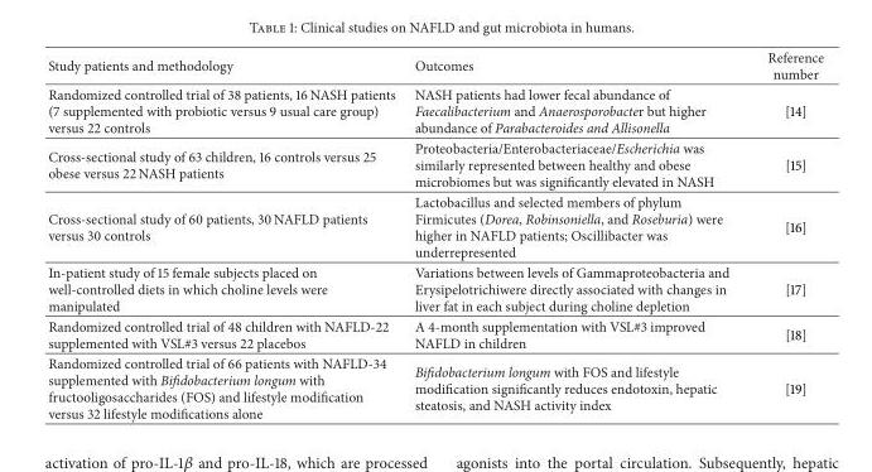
<table><thead><tr><td>Study patients and methodology</td><td>Outcomes</td><td>Reference number</td></tr></thead><tbody><tr><td>Randomized controlled trial of 38 patients, 16 NASH patients (7 supplemented with probiotic versus 9 usual care group) versus 22 controls</td><td>NASH patients had lower fecal abundance of Faecalibacterium and Anaerosporobacter but higher abundance of Parabacteroides and Allisonella</td><td>[14]</td></tr><tr><td>Cross-sectional study of 63 children, 16 controls versus 25 obese versus 22 NASH patients</td><td>Proteobacteria/Enterobacteriaceae/Escherichia was similarly represented between healthy and obese microbiomes but was significantly elevated in NASH</td><td>[15]</td></tr><tr><td>Cross-sectional study of 60 patients, 30 NAFLD patients versus 30 controls</td><td>Lactobacillus and selected members of phylum Firmicutes (Dorea, Robinsoniella, and Roseburia) were higher in NAFLD patients; Oscillibacter was underrepresented</td><td>[16]</td></tr><tr><td>In-patient study of 15 female subjects placed on well-controlled diets in which choline levels were manipulated</td><td>Variations between levels of Gammaproteobacteria and Erysipelotrichiwere directly associated with changes in liver fat in each subject during choline depletion</td><td>[17]</td></tr><tr><td>Randomized controlled trial of 48 children with NAFLD-22 supplemented with VSL#3 versus 22 placebos</td><td>A 4-month supplementation with VSL#3 improved NAFLD in children</td><td>[18]</td></tr><tr><td>Randomized controlled trial of 66 patients with NAFLD-34 supplemented with Bifidobacterium longum with fructooligosaccharides (FOS) and lifestyle modification versus 32 lifestyle modifications alone</td><td>Bifidobacterium longum with FOS and lifestyle modification significantly reduces endotoxin, hepatic steatosis, and NASH activity index</td><td>[19]</td></tr></tbody></table>